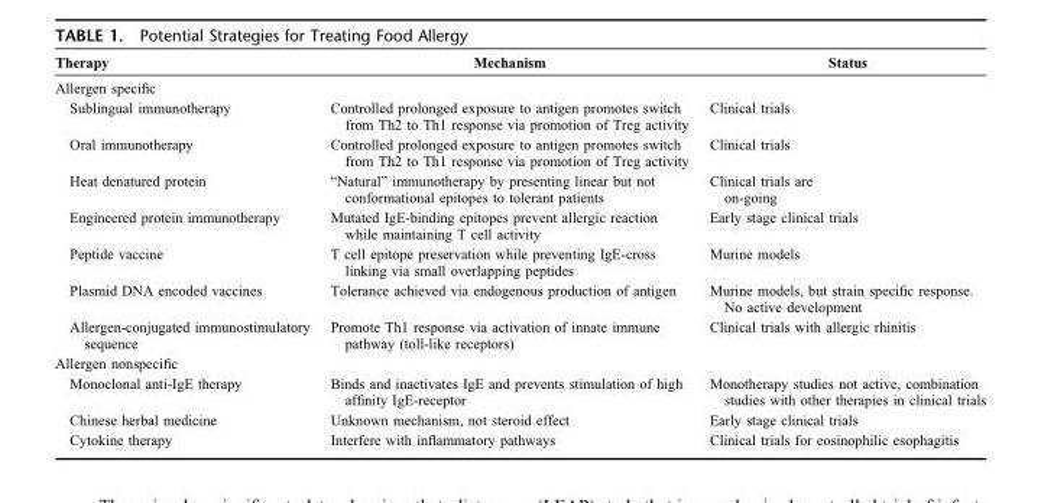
<table><thead><tr><td>Therapy</td><td>Mechanism</td><td>Status</td></tr></thead><tbody><tr><td colspan="3">Allergen specific</td></tr><tr><td>Sublingual immunotherapy</td><td>Controlled prolonged exposure to antigen promotes switch from Th2 to Th1 response via promotion of Treg activity</td><td>Clinical trials</td></tr><tr><td>Oral immunotherapy</td><td>Controlled prolonged exposure to antigen promotes switch from Th2 to Th1 response via promotion of Treg activity</td><td>Clinical trials</td></tr><tr><td>Heat denatured protein</td><td>“Natural” immunotherapy by presenting linear but not conformational epitopes to tolerant patients</td><td>Clinical trials are on-going</td></tr><tr><td>Engineered protein immunotherapy</td><td>Mutated IgE-binding epitopes prevent allergic reaction while maintaining T cell activity</td><td>Early stage clinical trials</td></tr><tr><td>Peptide vaccine</td><td>T cell epitope preservation while preventing IgE-cross linking via small overlapping peptides</td><td>Murine models</td></tr><tr><td>Plasmid DNA encoded vaccines</td><td>Tolerance achieved via endogenous production of antigen</td><td>Murine models, but strain specific response. No active development</td></tr><tr><td>Allergen-conjugated immunostimulatory sequence</td><td>Promote Th1 response via activation of innate immune pathway (toll-like receptors)</td><td>Clinical trials with allergic rhinitis</td></tr><tr><td colspan="3">Allergen nonspecific</td></tr><tr><td>Monoclonal anti-IgE therapy</td><td>Binds and inactivates IgE and prevents stimulation of high affinity IgE-receptor</td><td>Monotherapy studies not active, combination studies with other therapies in clinical trials</td></tr><tr><td>Chinese herbal medicine</td><td>Unknown mechanism, not steroid effect</td><td>Early stage clinical trials</td></tr><tr><td>Cytokine therapy</td><td>Interfere with inflammatory pathways</td><td>Clinical trials for eosinophilic esophagitis</td></tr></tbody></table>